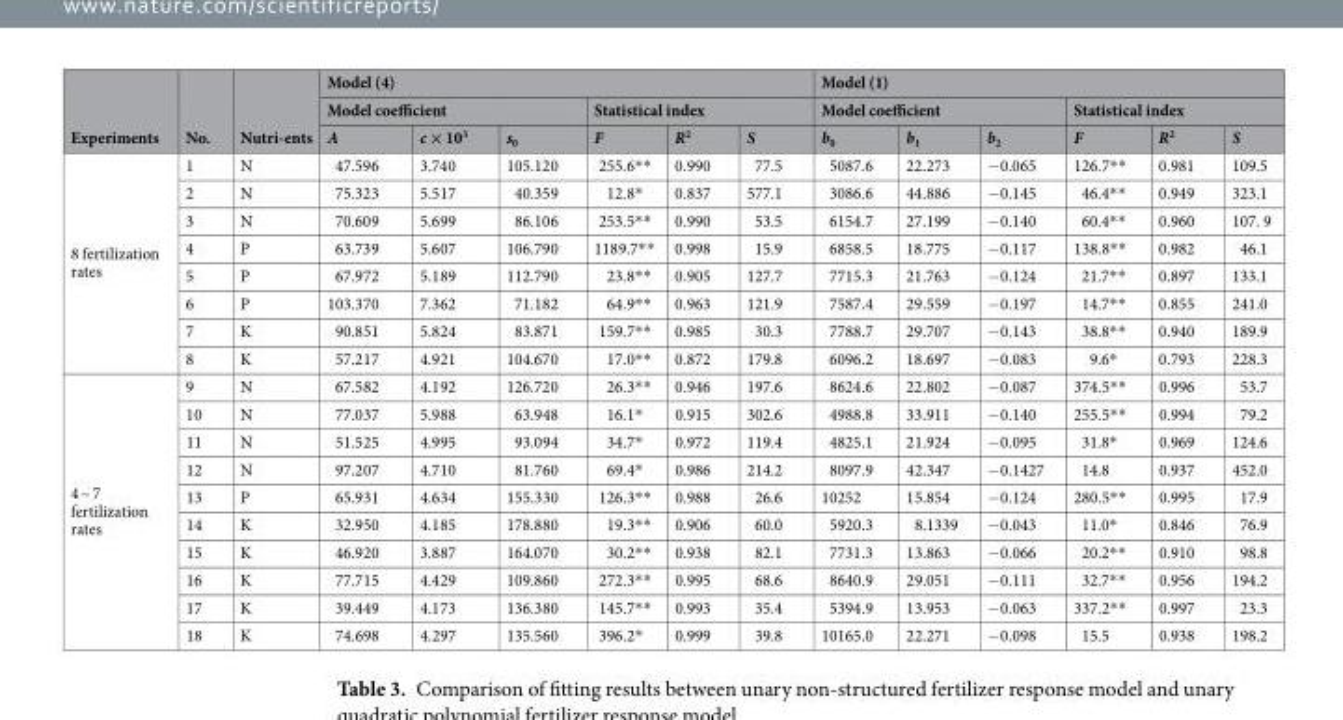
<table><thead><tr><td rowspan="3">Experiments</td><td rowspan="3">No.</td><td rowspan="3">Nutri-ents</td><td colspan="6">Model (4)</td><td colspan="6">Model (1)</td></tr><tr><td colspan="3">Model coefficient</td><td colspan="3">Statistical index</td><td colspan="3">Model coefficient</td><td colspan="3">Statistical index</td></tr><tr><td>A</td><td>c × 10<sup>3</sup></td><td>s<sub>0</sub></td><td>F</td><td>R<sup>2</sup></td><td>S</td><td>b<sub>0</sub></td><td>b<sub>1</sub></td><td>b<sub>2</sub></td><td>F</td><td>R<sup>2</sup></td><td>S</td></tr></thead><tbody><tr><td rowspan="8">8 fertilization rates</td><td>1</td><td>N</td><td>47.596</td><td>3.740</td><td>105.120</td><td>255.6**</td><td>0.990</td><td>77.5</td><td>5087.6</td><td>22.273</td><td>−0.065</td><td>126.7**</td><td>0.981</td><td>109.5</td></tr><tr><td>2</td><td>N</td><td>75.323</td><td>5.517</td><td>40.359</td><td>12.8*</td><td>0.837</td><td>577.1</td><td>3086.6</td><td>44.886</td><td>−0.145</td><td>46.4**</td><td>0.949</td><td>323.1</td></tr><tr><td>3</td><td>N</td><td>70.609</td><td>5.699</td><td>86.106</td><td>253.5**</td><td>0.990</td><td>53.5</td><td>6154.7</td><td>27.199</td><td>−0.140</td><td>60.4**</td><td>0.960</td><td>107. 9</td></tr><tr><td>4</td><td>P</td><td>63.739</td><td>5.607</td><td>106.790</td><td>1189.7**</td><td>0.998</td><td>15.9</td><td>6858.5</td><td>18.775</td><td>−0.117</td><td>138.8**</td><td>0.982</td><td>46.1</td></tr><tr><td>5</td><td>P</td><td>67.972</td><td>5.189</td><td>112.790</td><td>23.8**</td><td>0.905</td><td>127.7</td><td>7715.3</td><td>21.763</td><td>−0.124</td><td>21.7**</td><td>0.897</td><td>133.1</td></tr><tr><td>6</td><td>P</td><td>103.370</td><td>7.362</td><td>71.182</td><td>64.9**</td><td>0.963</td><td>121.9</td><td>7587.4</td><td>29.559</td><td>−0.197</td><td>14.7**</td><td>0.855</td><td>241.0</td></tr><tr><td>7</td><td>K</td><td>90.851</td><td>5.824</td><td>83.871</td><td>159.7**</td><td>0.985</td><td>30.3</td><td>7788.7</td><td>29.707</td><td>−0.143</td><td>38.8**</td><td>0.940</td><td>189.9</td></tr><tr><td>8</td><td>K</td><td>57.217</td><td>4.921</td><td>104.670</td><td>17.0**</td><td>0.872</td><td>179.8</td><td>6096.2</td><td>18.697</td><td>−0.083</td><td>9.6*</td><td>0.793</td><td>228.3</td></tr><tr><td rowspan="10">4 ~ 7 fertilization rates</td><td>9</td><td>N</td><td>67.582</td><td>4.192</td><td>126.720</td><td>26.3**</td><td>0.946</td><td>197.6</td><td>8624.6</td><td>22.802</td><td>−0.087</td><td>374.5**</td><td>0.996</td><td>53.7</td></tr><tr><td>10</td><td>N</td><td>77.037</td><td>5.988</td><td>63.948</td><td>16.1*</td><td>0.915</td><td>302.6</td><td>4988.8</td><td>33.911</td><td>−0.140</td><td>255.5**</td><td>0.994</td><td>79.2</td></tr><tr><td>11</td><td>N</td><td>51.525</td><td>4.995</td><td>93.094</td><td>34.7*</td><td>0.972</td><td>119.4</td><td>4825.1</td><td>21.924</td><td>−0.095</td><td>31.8*</td><td>0.969</td><td>124.6</td></tr><tr><td>12</td><td>N</td><td>97.207</td><td>4.710</td><td>81.760</td><td>69.4*</td><td>0.986</td><td>214.2</td><td>8097.9</td><td>42.347</td><td>−0.1427</td><td>14.8</td><td>0.937</td><td>452.0</td></tr><tr><td>13</td><td>P</td><td>65.931</td><td>4.634</td><td>155.330</td><td>126.3**</td><td>0.988</td><td>26.6</td><td>10252</td><td>15.854</td><td>−0.124</td><td>280.5**</td><td>0.995</td><td>17.9</td></tr><tr><td>14</td><td>K</td><td>32.950</td><td>4.185</td><td>178.880</td><td>19.3**</td><td>0.906</td><td>60.0</td><td>5920.3</td><td>8.1339</td><td>−0.043</td><td>11.0*</td><td>0.846</td><td>76.9</td></tr><tr><td>15</td><td>K</td><td>46.920</td><td>3.887</td><td>164.070</td><td>30.2**</td><td>0.938</td><td>82.1</td><td>7731.3</td><td>13.863</td><td>−0.066</td><td>20.2**</td><td>0.910</td><td>98.8</td></tr><tr><td>16</td><td>K</td><td>77.715</td><td>4.429</td><td>109.860</td><td>272.3**</td><td>0.995</td><td>68.6</td><td>8640.9</td><td>29.051</td><td>−0.111</td><td>32.7**</td><td>0.956</td><td>194.2</td></tr><tr><td>17</td><td>K</td><td>39.449</td><td>4.173</td><td>136.380</td><td>145.7**</td><td>0.993</td><td>35.4</td><td>5394.9</td><td>13.953</td><td>−0.063</td><td>337.2**</td><td>0.997</td><td>23.3</td></tr><tr><td>18</td><td>K</td><td>74.698</td><td>4.297</td><td>135.560</td><td>396.2*</td><td>0.999</td><td>39.8</td><td>10165.0</td><td>22.271</td><td>−0.098</td><td>15.5</td><td>0.938</td><td>198.2</td></tr></tbody></table>